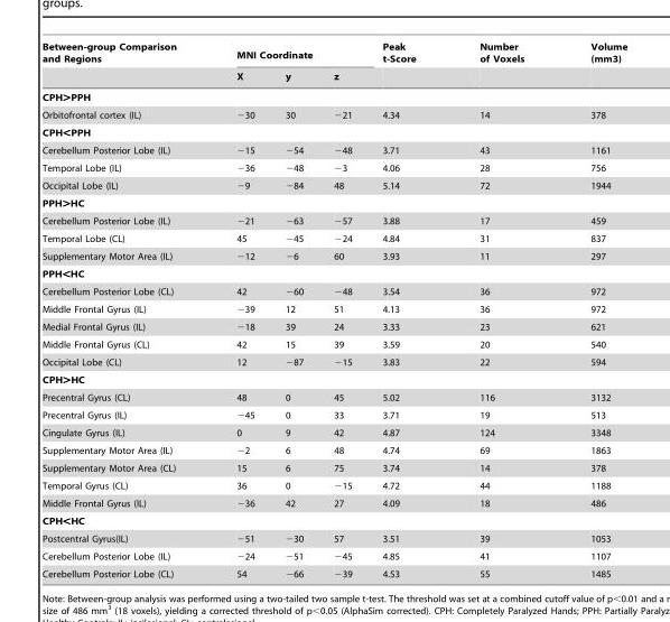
<table><thead><tr><td rowspan="2">Between-group Comparison and Regions</td><td colspan="3">MNI Coordinate</td><td rowspan="2">Peak t-Score</td><td rowspan="2">Number of Voxels</td><td rowspan="2">Volume (mm3)</td></tr><tr><td>X</td><td>y</td><td>z</td></tr></thead><tbody><tr><td colspan="7">CPH&gt;PPH</td></tr><tr><td>Orbitofrontal cortex (IL)</td><td>−30</td><td>30</td><td>−21</td><td>4.34</td><td>14</td><td>378</td></tr><tr><td colspan="7">CPH&lt;PPH</td></tr><tr><td>Cerebellum Posterior Lobe (IL)</td><td>−15</td><td>−54</td><td>−48</td><td>3.71</td><td>43</td><td>1161</td></tr><tr><td>Temporal Lobe (IL)</td><td>−36</td><td>−48</td><td>−3</td><td>4.06</td><td>28</td><td>756</td></tr><tr><td>Occipital Lobe (IL)</td><td>−9</td><td>−84</td><td>48</td><td>5.14</td><td>72</td><td>1944</td></tr><tr><td colspan="7">PPH&gt;HC</td></tr><tr><td>Cerebellum Posterior Lobe (IL)</td><td>−21</td><td>−63</td><td>−57</td><td>3.88</td><td>17</td><td>459</td></tr><tr><td>Temporal Lobe (CL)</td><td>45</td><td>−45</td><td>−24</td><td>4.84</td><td>31</td><td>837</td></tr><tr><td>Supplementary Motor Area (IL)</td><td>−12</td><td>−6</td><td>60</td><td>3.93</td><td>11</td><td>297</td></tr><tr><td colspan="7">PPH&lt;HC</td></tr><tr><td>Cerebellum Posterior Lobe (CL)</td><td>42</td><td>−60</td><td>−48</td><td>3.54</td><td>36</td><td>972</td></tr><tr><td>Middle Frontal Gyrus (IL)</td><td>−39</td><td>12</td><td>51</td><td>4.13</td><td>36</td><td>972</td></tr><tr><td>Medial Frontal Gyrus (IL)</td><td>−18</td><td>39</td><td>24</td><td>3.33</td><td>23</td><td>621</td></tr><tr><td>Middle Frontal Gyrus (CL)</td><td>42</td><td>15</td><td>39</td><td>3.59</td><td>20</td><td>540</td></tr><tr><td>Occipital Lobe (CL)</td><td>12</td><td>−87</td><td>−15</td><td>3.83</td><td>22</td><td>594</td></tr><tr><td colspan="7">CPH&gt;HC</td></tr><tr><td>Precentral Gyrus (CL)</td><td>48</td><td>0</td><td>45</td><td>5.02</td><td>116</td><td>3132</td></tr><tr><td>Precentral Gyrus (IL)</td><td>−45</td><td>0</td><td>33</td><td>3.71</td><td>19</td><td>513</td></tr><tr><td>Cingulate Gyrus (IL)</td><td>0</td><td>9</td><td>42</td><td>4.87</td><td>124</td><td>3348</td></tr><tr><td>Supplementary Motor Area (IL)</td><td>−2</td><td>6</td><td>48</td><td>4.74</td><td>69</td><td>1863</td></tr><tr><td>Supplementary Motor Area (CL)</td><td>15</td><td>6</td><td>75</td><td>3.74</td><td>14</td><td>378</td></tr><tr><td>Temporal Gyrus (CL)</td><td>36</td><td>0</td><td>−15</td><td>4.72</td><td>44</td><td>1188</td></tr><tr><td>Middle Frontal Gyrus (IL)</td><td>−36</td><td>42</td><td>27</td><td>4.09</td><td>18</td><td>486</td></tr><tr><td colspan="7">CPH&lt;HC</td></tr><tr><td>Postcentral Gyrus(IL)</td><td>−51</td><td>−30</td><td>57</td><td>3.51</td><td>39</td><td>1053</td></tr><tr><td>Cerebellum Posterior Lobe (IL)</td><td>−24</td><td>−51</td><td>−45</td><td>4.85</td><td>41</td><td>1107</td></tr><tr><td>Cerebellum Posterior Lobe (CL)</td><td>54</td><td>−66</td><td>−39</td><td>4.53</td><td>55</td><td>1485</td></tr></tbody></table>